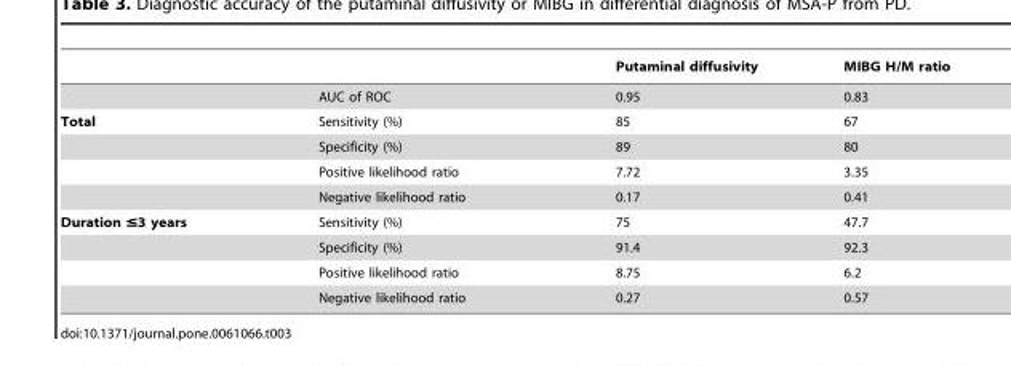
<table><thead><tr><td></td><td></td><td>Putaminal diffusivity</td><td>MIBG H/M ratio</td></tr></thead><tbody><tr><td></td><td>AUC of ROC</td><td>0.95</td><td>0.83</td></tr><tr><td rowspan="4">Total</td><td>Sensitivity (%)</td><td>85</td><td>67</td></tr><tr><td>Specificity (%)</td><td>89</td><td>80</td></tr><tr><td>Positive likelihood ratio</td><td>7.72</td><td>3.35</td></tr><tr><td>Negative likelihood ratio</td><td>0.17</td><td>0.41</td></tr><tr><td rowspan="4">Duration ≤3 years</td><td>Sensitivity (%)</td><td>75</td><td>47.7</td></tr><tr><td>Specificity (%)</td><td>91.4</td><td>92.3</td></tr><tr><td>Positive likelihood ratio</td><td>8.75</td><td>6.2</td></tr><tr><td>Negative likelihood ratio</td><td>0.27</td><td>0.57</td></tr></tbody></table>